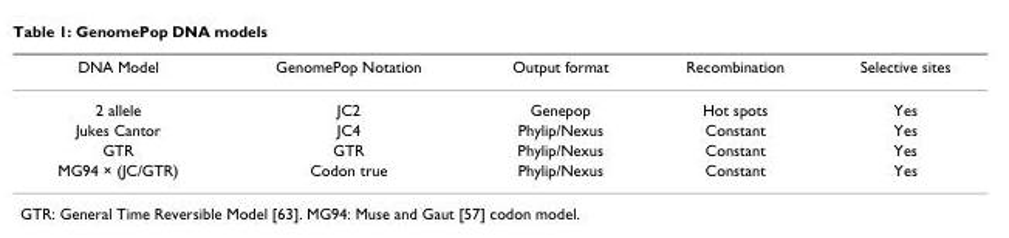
<table><thead><tr><td>DNA Model</td><td>GenomePop Notation</td><td>Output format</td><td>Recombination</td><td>Selective sites</td></tr></thead><tbody><tr><td>2 allele</td><td>JC2</td><td>Genepop</td><td>Hot spots</td><td>Yes</td></tr><tr><td>Jukes Cantor</td><td>JC4</td><td>Phylip/Nexus</td><td>Constant</td><td>Yes</td></tr><tr><td>GTR</td><td>GTR</td><td>Phylip/Nexus</td><td>Constant</td><td>Yes</td></tr><tr><td>MG94 × (JC/GTR)</td><td>Codon true</td><td>Phylip/Nexus</td><td>Constant</td><td>Yes</td></tr></tbody></table>